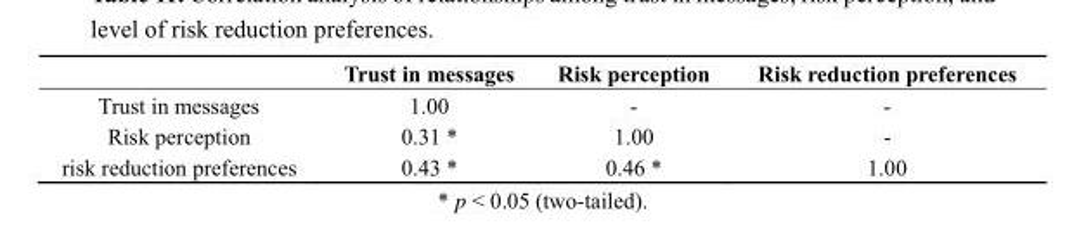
<table><thead><tr><td></td><td>Trust in messages</td><td>Risk perception</td><td>Risk reduction preferences</td></tr></thead><tbody><tr><td>Trust in messages</td><td>1.00</td><td>-</td><td>-</td></tr><tr><td>Risk perception</td><td>0.31 *</td><td>1.00</td><td>-</td></tr><tr><td>risk reduction preferences</td><td>0.43 *</td><td>0.46 *</td><td>1.00</td></tr></tbody></table>